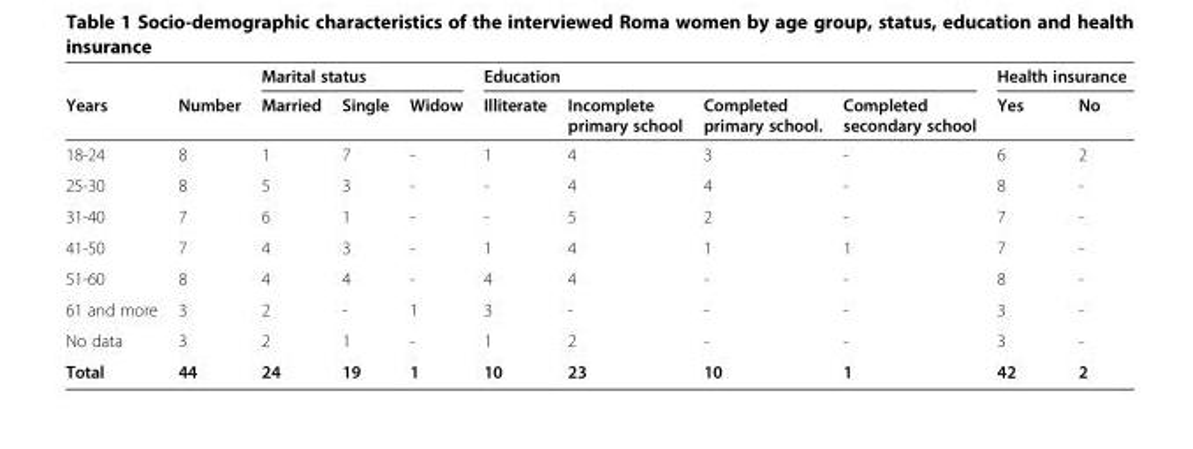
<table><thead><tr><td rowspan="2">Years</td><td rowspan="2">Number</td><td colspan="3">Marital status</td><td colspan="4">Education</td><td colspan="2">Health insurance</td></tr><tr><td>Married</td><td>Single</td><td>Widow</td><td>Illiterate</td><td>Incomplete primary school</td><td>Completed primary school.</td><td>Completed secondary school</td><td>Yes</td><td>No</td></tr></thead><tbody><tr><td>18-24</td><td>8</td><td>1</td><td>7</td><td>-</td><td>1</td><td>4</td><td>3</td><td>-</td><td>6</td><td>2</td></tr><tr><td>25-30</td><td>8</td><td>5</td><td>3</td><td>-</td><td>-</td><td>4</td><td>4</td><td>-</td><td>8</td><td>-</td></tr><tr><td>31-40</td><td>7</td><td>6</td><td>1</td><td>-</td><td>-</td><td>5</td><td>2</td><td>-</td><td>7</td><td>-</td></tr><tr><td>41-50</td><td>7</td><td>4</td><td>3</td><td>-</td><td>1</td><td>4</td><td>1</td><td>1</td><td>7</td><td>-</td></tr><tr><td>51-60</td><td>8</td><td>4</td><td>4</td><td>-</td><td>4</td><td>4</td><td>-</td><td>-</td><td>8</td><td>-</td></tr><tr><td>61 and more</td><td>3</td><td>2</td><td>-</td><td>1</td><td>3</td><td>-</td><td>-</td><td>-</td><td>3</td><td>-</td></tr><tr><td>No data</td><td>3</td><td>2</td><td>1</td><td>-</td><td>1</td><td>2</td><td>-</td><td>-</td><td>3</td><td>-</td></tr><tr><td>Total</td><td>44</td><td>24</td><td>19</td><td>1</td><td>10</td><td>23</td><td>10</td><td>1</td><td>42</td><td>2</td></tr></tbody></table>